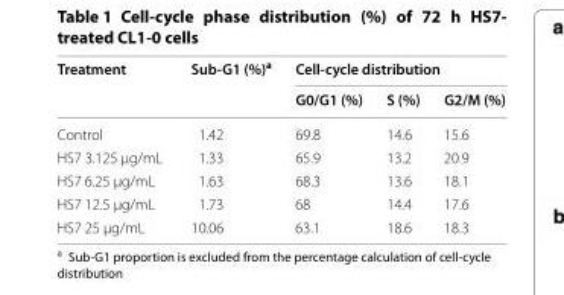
<table><thead><tr><td rowspan="2">Treatment</td><td rowspan="2">Sub‑G1 (%)<sup>a</sup></td><td colspan="3">Cell‑cycle distribution</td></tr><tr><td>G0/G1 (%)</td><td>S (%)</td><td>G2/M (%)</td></tr></thead><tbody><tr><td>Control</td><td>1.42</td><td>69.8</td><td>14.6</td><td>15.6</td></tr><tr><td>HS7 3.125 μg/mL</td><td>1.33</td><td>65.9</td><td>13.2</td><td>20.9</td></tr><tr><td>HS7 6.25 μg/mL</td><td>1.63</td><td>68.3</td><td>13.6</td><td>18.1</td></tr><tr><td>HS7 12.5 μg/mL</td><td>1.73</td><td>68</td><td>14.4</td><td>17.6</td></tr><tr><td>HS7 25 μg/mL</td><td>10.06</td><td>63.1</td><td>18.6</td><td>18.3</td></tr></tbody></table>